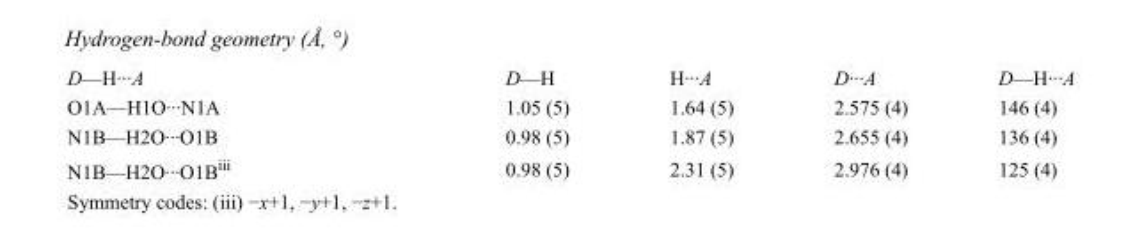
<table><tbody><tr><td>D—H···A</td><td>D—H</td><td>H···A</td><td>D···A</td><td>D—H···A</td></tr><tr><td>O1A—H1O···N1A</td><td>1.05 (5)</td><td>1.64 (5)</td><td>2.575 (4)</td><td>146 (4)</td></tr><tr><td>N1B—H2O···O1B</td><td>0.98 (5)</td><td>1.87 (5)</td><td>2.655 (4)</td><td>136 (4)</td></tr><tr><td>N1B—H2O···O1B<sup>iii</sup></td><td>0.98 (5)</td><td>2.31 (5)</td><td>2.976 (4)</td><td>125 (4)</td></tr></tbody></table>